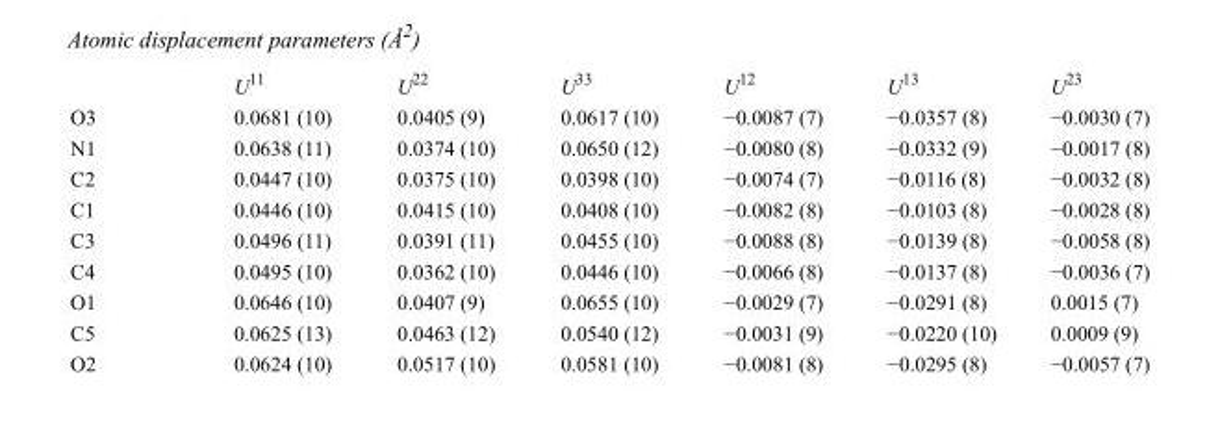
<table><thead><tr><td></td><td>U<sup>11</sup></td><td>U<sup>22</sup></td><td>U<sup>33</sup></td><td>U<sup>12</sup></td><td>U<sup>13</sup></td><td>U<sup>23</sup></td></tr></thead><tbody><tr><td>O3</td><td>0.0681 (10)</td><td>0.0405 (9)</td><td>0.0617 (10)</td><td>−0.0087 (7)</td><td>−0.0357 (8)</td><td>−0.0030 (7)</td></tr><tr><td>N1</td><td>0.0638 (11)</td><td>0.0374 (10)</td><td>0.0650 (12)</td><td>−0.0080 (8)</td><td>−0.0332 (9)</td><td>−0.0017 (8)</td></tr><tr><td>C2</td><td>0.0447 (10)</td><td>0.0375 (10)</td><td>0.0398 (10)</td><td>−0.0074 (7)</td><td>−0.0116 (8)</td><td>−0.0032 (8)</td></tr><tr><td>C1</td><td>0.0446 (10)</td><td>0.0415 (10)</td><td>0.0408 (10)</td><td>−0.0082 (8)</td><td>−0.0103 (8)</td><td>−0.0028 (8)</td></tr><tr><td>C3</td><td>0.0496 (11)</td><td>0.0391 (11)</td><td>0.0455 (10)</td><td>−0.0088 (8)</td><td>−0.0139 (8)</td><td>−0.0058 (8)</td></tr><tr><td>C4</td><td>0.0495 (10)</td><td>0.0362 (10)</td><td>0.0446 (10)</td><td>−0.0066 (8)</td><td>−0.0137 (8)</td><td>−0.0036 (7)</td></tr><tr><td>O1</td><td>0.0646 (10)</td><td>0.0407 (9)</td><td>0.0655 (10)</td><td>−0.0029 (7)</td><td>−0.0291 (8)</td><td>0.0015 (7)</td></tr><tr><td>C5</td><td>0.0625 (13)</td><td>0.0463 (12)</td><td>0.0540 (12)</td><td>−0.0031 (9)</td><td>−0.0220 (10)</td><td>0.0009 (9)</td></tr><tr><td>O2</td><td>0.0624 (10)</td><td>0.0517 (10)</td><td>0.0581 (10)</td><td>−0.0081 (8)</td><td>−0.0295 (8)</td><td>−0.0057 (7)</td></tr></tbody></table>